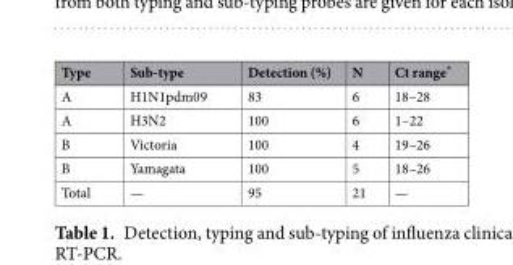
<table><thead><tr><td>Type</td><td>Sub-type</td><td>Detection (%)</td><td>N</td><td>Ct range*</td></tr></thead><tbody><tr><td>A</td><td>H1N1pdm09</td><td>83</td><td>6</td><td>18–28</td></tr><tr><td>A</td><td>H3N2</td><td>100</td><td>6</td><td>1–22</td></tr><tr><td>B</td><td>Victoria</td><td>100</td><td>4</td><td>19–26</td></tr><tr><td>B</td><td>Yamagata</td><td>100</td><td>5</td><td>18–26</td></tr><tr><td>Total</td><td>—</td><td>95</td><td>21</td><td>—</td></tr></tbody></table>